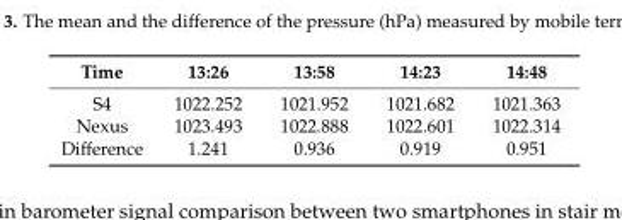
<table><thead><tr><td>Time</td><td>13:26</td><td>13:58</td><td>14:23</td><td>14:48</td></tr></thead><tbody><tr><td>S4</td><td>1022.252</td><td>1021.952</td><td>1021.682</td><td>1021.363</td></tr><tr><td>Nexus</td><td>1023.493</td><td>1022.888</td><td>1022.601</td><td>1022.314</td></tr><tr><td>Difference</td><td>1.241</td><td>0.936</td><td>0.919</td><td>0.951</td></tr></tbody></table>